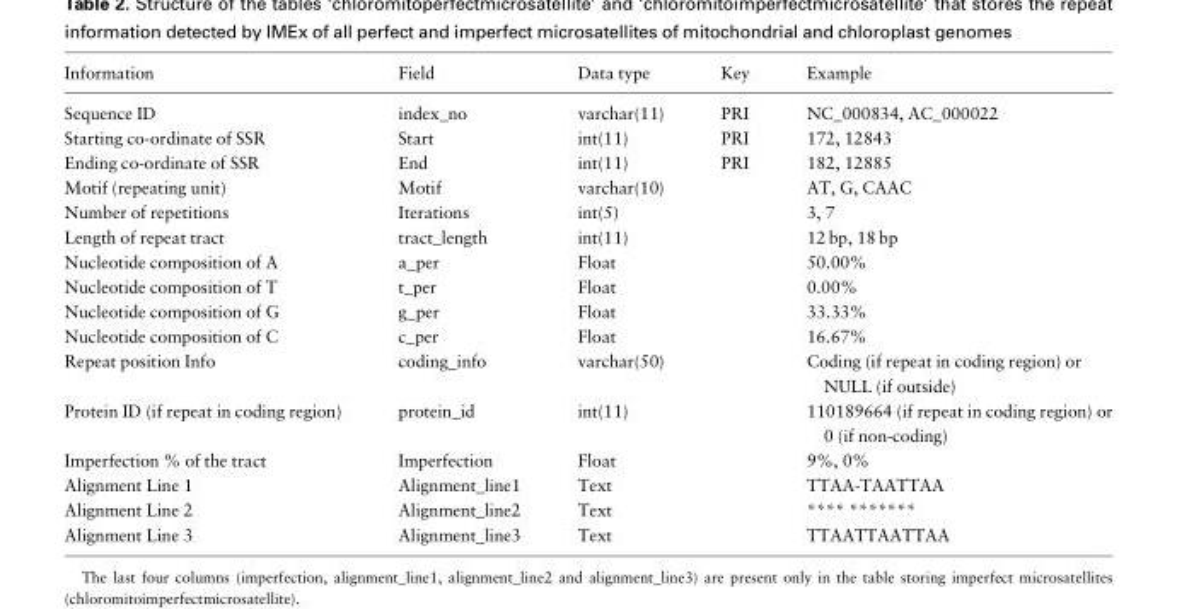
<table><thead><tr><td>Information</td><td>Field</td><td>Data type</td><td>Key</td><td>Example</td></tr></thead><tbody><tr><td>Sequence ID</td><td>index_no</td><td>varchar(11)</td><td>PRI</td><td>NC_000834, AC_000022</td></tr><tr><td>Starting co-ordinate of SSR</td><td>Start</td><td>int(11)</td><td>PRI</td><td>172, 12843</td></tr><tr><td>Ending co-ordinate of SSR</td><td>End</td><td>int(11)</td><td>PRI</td><td>182, 12885</td></tr><tr><td>Motif (repeating unit)</td><td>Motif</td><td>varchar(10)</td><td></td><td>AT, G, CAAC</td></tr><tr><td>Number of repetitions</td><td>Iterations</td><td>int(5)</td><td></td><td>3, 7</td></tr><tr><td>Length of repeat tract</td><td>tract_length</td><td>int(11)</td><td></td><td>12 bp, 18 bp</td></tr><tr><td>Nucleotide composition of A</td><td>a_per</td><td>Float</td><td></td><td>50.00%</td></tr><tr><td>Nucleotide composition of T</td><td>t_per</td><td>Float</td><td></td><td>0.00%</td></tr><tr><td>Nucleotide composition of G</td><td>g_per</td><td>Float</td><td></td><td>33.33%</td></tr><tr><td>Nucleotide composition of C</td><td>c_per</td><td>Float</td><td></td><td>16.67%</td></tr><tr><td>Repeat position Info</td><td>coding_info</td><td>varchar(50)</td><td></td><td>Coding (if repeat in coding region) or NULL (if outside)</td></tr><tr><td>Protein ID (if repeat in coding region)</td><td>protein_id</td><td>int(11)</td><td></td><td>110189664 (if repeat in coding region) or 0 (if non-coding)</td></tr><tr><td>Imperfection % of the tract</td><td>Imperfection</td><td>Float</td><td></td><td>9%, 0%</td></tr><tr><td>Alignment Line 1</td><td>Alignment_line1</td><td>Text</td><td></td><td>TTAA-TAATTAA</td></tr><tr><td>Alignment Line 2</td><td>Alignment_line2</td><td>Text</td><td></td><td>**** *******</td></tr><tr><td>Alignment Line 3</td><td>Alignment_line3</td><td>Text</td><td></td><td>TTAATTAATTAA</td></tr></tbody></table>